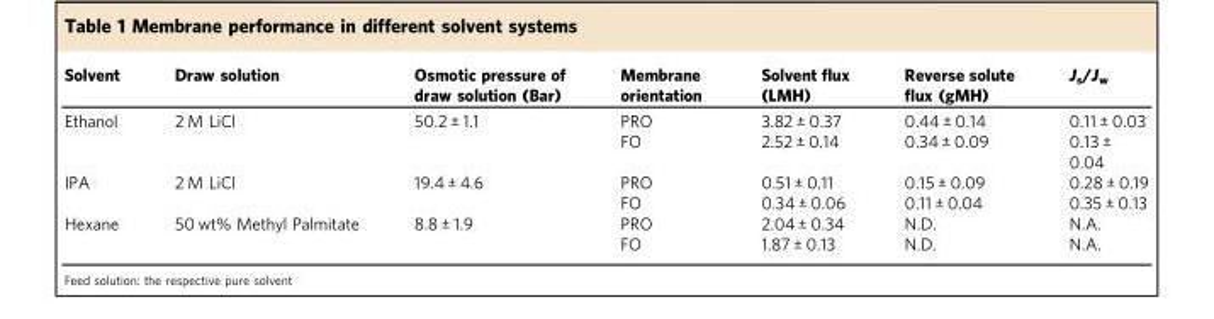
<table><thead><tr><td>Solvent</td><td>Draw solution</td><td>Osmotic pressure of draw solution (Bar)</td><td>Membrane orientation</td><td>Solvent flux (LMH)</td><td>Reverse solute flux (gMH)</td><td>J<sub>s</sub>/J<sub>w</sub></td></tr></thead><tbody><tr><td rowspan="2">Ethanol</td><td rowspan="2">2 M LiCl</td><td rowspan="2">50.2 ± 1.1</td><td>PRO</td><td>3.82 ± 0.37</td><td>0.44 ± 0.14</td><td>0.11 ± 0.03</td></tr><tr><td>FO</td><td>2.52 ± 0.14</td><td>0.34 ± 0.09</td><td>0.13 ± 0.04</td></tr><tr><td rowspan="2">IPA</td><td rowspan="2">2 M LiCl</td><td rowspan="2">19.4 ± 4.6</td><td>PRO</td><td>0.51 ± 0.11</td><td>0.15 ± 0.09</td><td>0.28 ± 0.19</td></tr><tr><td>FO</td><td>0.34 ± 0.06</td><td>0.11 ± 0.04</td><td>0.35 ± 0.13</td></tr><tr><td rowspan="2">Hexane</td><td rowspan="2">50 wt% Methyl Palmitate</td><td rowspan="2">8.8 ± 1.9</td><td>PRO</td><td>2.04 ± 0.34</td><td>N.D.</td><td>N.A.</td></tr><tr><td>FO</td><td>1.87 ± 0.13</td><td>N.D.</td><td>N.A.</td></tr></tbody></table>